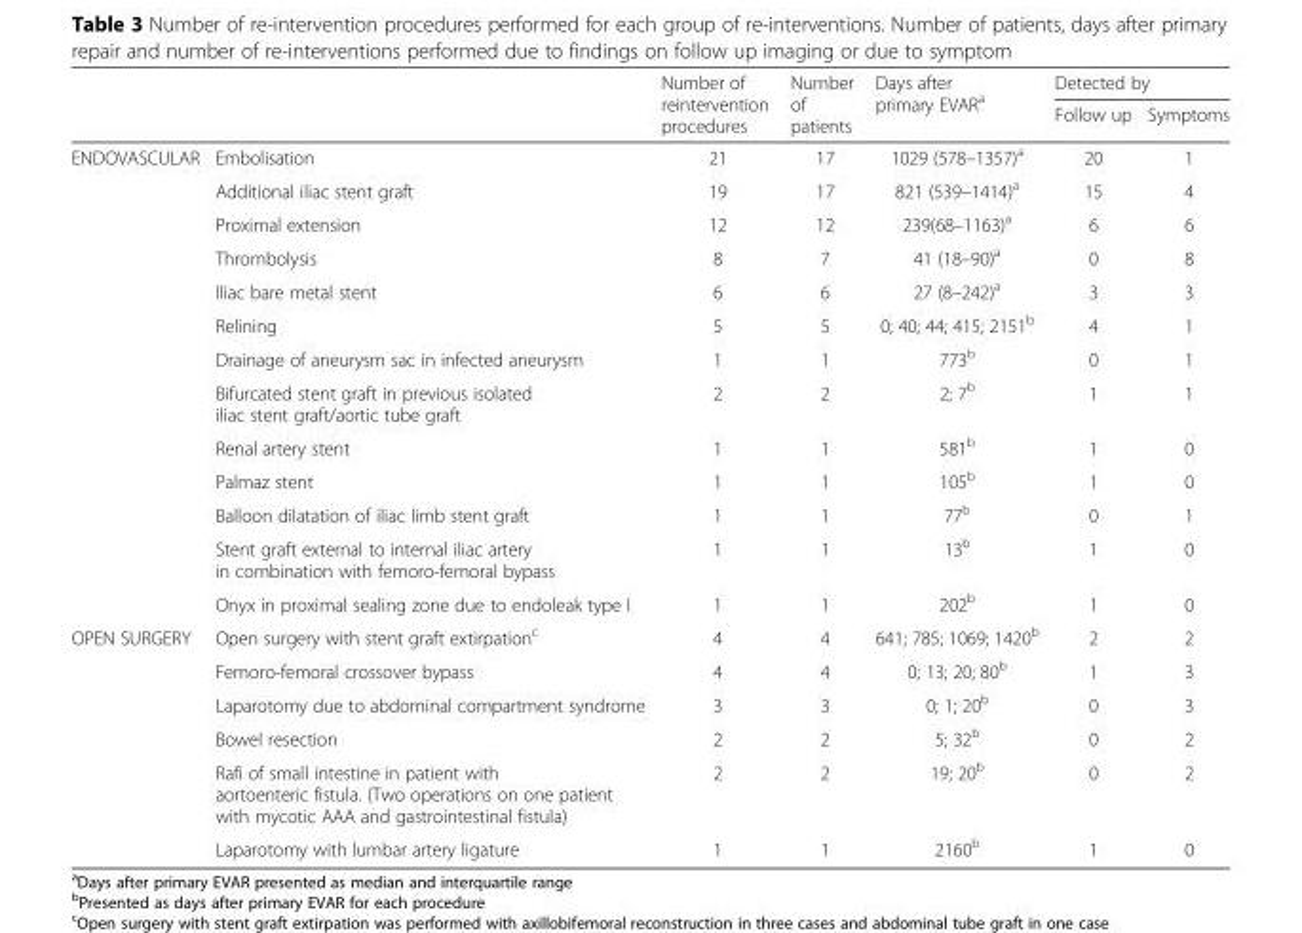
<table><thead><tr><td rowspan="2"></td><td rowspan="2"></td><td rowspan="2">Number of reintervention procedures</td><td rowspan="2">Number of patients</td><td rowspan="2">Days after primary EVAR<sup>a</sup></td><td colspan="2">Detected by</td></tr><tr><td>Follow up</td><td>Symptoms</td></tr></thead><tbody><tr><td rowspan="13">ENDOVASCULAR</td><td>Embolisation</td><td>21</td><td>17</td><td>1029 (578–1357)<sup>a</sup></td><td>20</td><td>1</td></tr><tr><td>Additional iliac stent graft</td><td>19</td><td>17</td><td>821 (539–1414)<sup>a</sup></td><td>15</td><td>4</td></tr><tr><td>Proximal extension</td><td>12</td><td>12</td><td>239(68–1163)<sup>a</sup></td><td>6</td><td>6</td></tr><tr><td>Thrombolysis</td><td>8</td><td>7</td><td>41 (18–90)<sup>a</sup></td><td>0</td><td>8</td></tr><tr><td>Iliac bare metal stent</td><td>6</td><td>6</td><td>27 (8–242)<sup>a</sup></td><td>3</td><td>3</td></tr><tr><td>Relining</td><td>5</td><td>5</td><td>0; 40; 44; 415; 2151<sup>b</sup></td><td>4</td><td>1</td></tr><tr><td>Drainage of aneurysm sac in infected aneurysm</td><td>1</td><td>1</td><td>773<sup>b</sup></td><td>0</td><td>1</td></tr><tr><td>Bifurcated stent graft in previous isolated iliac stent graft/aortic tube graft</td><td>2</td><td>2</td><td>2; 7<sup>b</sup></td><td>1</td><td>1</td></tr><tr><td>Renal artery stent</td><td>1</td><td>1</td><td>581<sup>b</sup></td><td>1</td><td>0</td></tr><tr><td>Palmaz stent</td><td>1</td><td>1</td><td>105<sup>b</sup></td><td>1</td><td>0</td></tr><tr><td>Balloon dilatation of iliac limb stent graft</td><td>1</td><td>1</td><td>77<sup>b</sup></td><td>0</td><td>1</td></tr><tr><td>Stent graft external to internal iliac artery in combination with femoro-femoral bypass</td><td>1</td><td>1</td><td>13<sup>b</sup></td><td>1</td><td>0</td></tr><tr><td>Onyx in proximal sealing zone due to endoleak type I</td><td>1</td><td>1</td><td>202<sup>b</sup></td><td>1</td><td>0</td></tr><tr><td rowspan="6">OPEN SURGERY</td><td>Open surgery with stent graft extirpation<sup>c</sup></td><td>4</td><td>4</td><td>641; 785; 1069; 1420<sup>b</sup></td><td>2</td><td>2</td></tr><tr><td>Femoro-femoral crossover bypass</td><td>4</td><td>4</td><td>0; 13; 20; 80<sup>b</sup></td><td>1</td><td>3</td></tr><tr><td>Laparotomy due to abdominal compartment syndrome</td><td>3</td><td>3</td><td>0; 1; 20<sup>b</sup></td><td>0</td><td>3</td></tr><tr><td>Bowel resection</td><td>2</td><td>2</td><td>5; 32<sup>b</sup></td><td>0</td><td>2</td></tr><tr><td>Rafi of small intestine in patient with aortoenteric fistula. (Two operations on one patient with mycotic AAA and gastrointestinal fistula)</td><td>2</td><td>2</td><td>19; 20<sup>b</sup></td><td>0</td><td>2</td></tr><tr><td>Laparotomy with lumbar artery ligature</td><td>1</td><td>1</td><td>2160<sup>b</sup></td><td>1</td><td>0</td></tr></tbody></table>